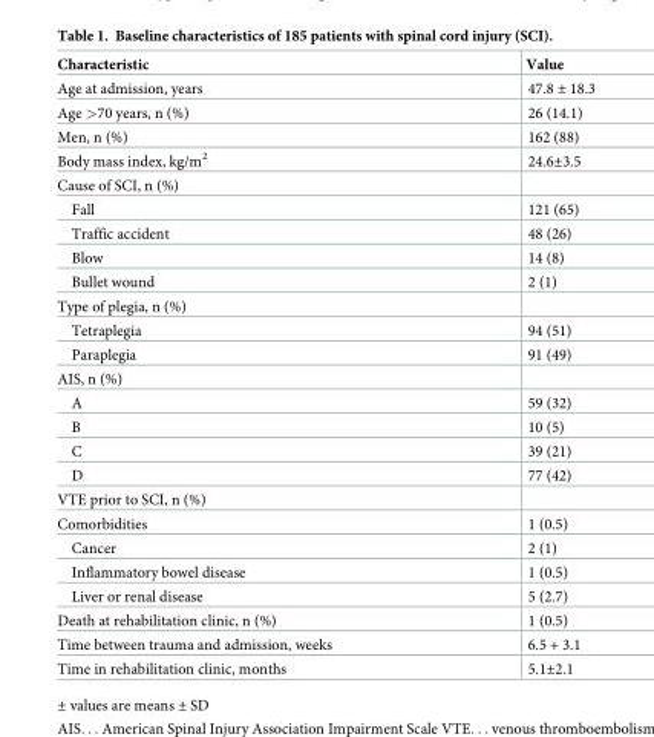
<table><thead><tr><td>Characteristic</td><td>Value</td></tr></thead><tbody><tr><td>Age at admission, years</td><td>47.8 ± 18.3</td></tr><tr><td>Age &gt;70 years, n (%)</td><td>26 (14.1)</td></tr><tr><td>Men, n (%)</td><td>162 (88)</td></tr><tr><td>Body mass index, kg/m<sup>2</sup></td><td>24.6±3.5</td></tr><tr><td colspan="2">Cause of SCI, n (%)</td></tr><tr><td>Fall</td><td>121 (65)</td></tr><tr><td>Traffic accident</td><td>48 (26)</td></tr><tr><td>Blow</td><td>14 (8)</td></tr><tr><td>Bullet wound</td><td>2 (1)</td></tr><tr><td colspan="2">Type of plegia, n (%)</td></tr><tr><td>Tetraplegia</td><td>94 (51)</td></tr><tr><td>Paraplegia</td><td>91 (49)</td></tr><tr><td colspan="2">AIS, n (%)</td></tr><tr><td>A</td><td>59 (32)</td></tr><tr><td>B</td><td>10 (5)</td></tr><tr><td>C</td><td>39 (21)</td></tr><tr><td>D</td><td>77 (42)</td></tr><tr><td colspan="2">VTE prior to SCI, n (%)</td></tr><tr><td>Comorbidities</td><td>1 (0.5)</td></tr><tr><td>Cancer</td><td>2 (1)</td></tr><tr><td>Inflammatory bowel disease</td><td>1 (0.5)</td></tr><tr><td>Liver or renal disease</td><td>5 (2.7)</td></tr><tr><td>Death at rehabilitation clinic, n (%)</td><td>1 (0.5)</td></tr><tr><td>Time between trauma and admission, weeks</td><td>6.5 + 3.1</td></tr><tr><td>Time in rehabilitation clinic, months</td><td>5.1±2.1</td></tr></tbody></table>